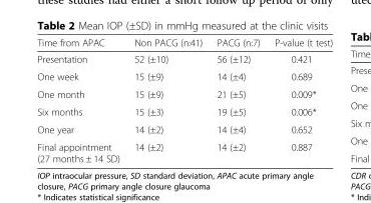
<table><thead><tr><td>Time from APAC</td><td>Non PACG (n:41)</td><td>PACG (n:7)</td><td>P-value (t test)</td></tr></thead><tbody><tr><td>Presentation</td><td>52 (±10)</td><td>56 (±12)</td><td>0.421</td></tr><tr><td>One week</td><td>15 (±9)</td><td>14 (±4)</td><td>0.689</td></tr><tr><td>One month</td><td>15 (±9)</td><td>21 (±5)</td><td>0.009*</td></tr><tr><td>Six months</td><td>15 (±3)</td><td>19 (±5)</td><td>0.006*</td></tr><tr><td>One year</td><td>14 (±2)</td><td>14 (±4)</td><td>0.652</td></tr><tr><td>Final appointment (27 months ± 14 SD)</td><td>14 (±2)</td><td>14 (±2)</td><td>0.887</td></tr></tbody></table>